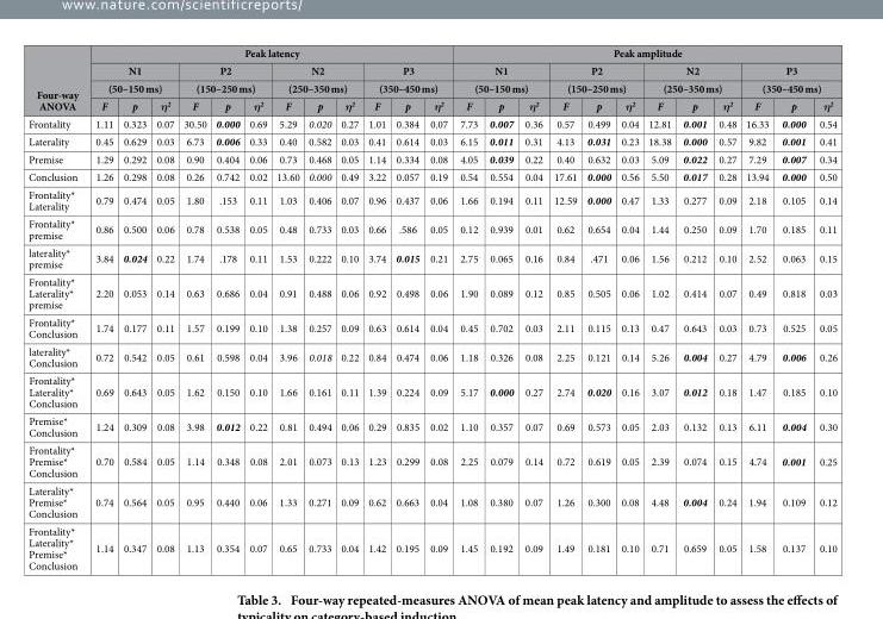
<table><thead><tr><td rowspan="4">Four-way ANOVA</td><td colspan="12">Peak latency</td><td colspan="12">Peak amplitude</td></tr><tr><td rowspan="2" colspan="3">N1 (50–150 ms)</td><td rowspan="2" colspan="3">P2 (150–250 ms)</td><td rowspan="2" colspan="3">N2 (250–350 ms)</td><td rowspan="2" colspan="3">P3 (350–450 ms)</td><td rowspan="2" colspan="3">N1 (50–150 ms)</td><td rowspan="2" colspan="3">P2 (150–250 ms)</td><td rowspan="2" colspan="3">N2 (250–350 ms)</td><td rowspan="2" colspan="3">P3 (350–450 ms)</td></tr><tr></tr><tr><td>F</td><td>p</td><td>η<sup>2</sup></td><td>F</td><td>p</td><td>η<sup>2</sup></td><td>F</td><td>p</td><td>η<sup>2</sup></td><td>F</td><td>p</td><td>η<sup>2</sup></td><td>F</td><td>p</td><td>η<sup>2</sup></td><td>F</td><td>p</td><td>η<sup>2</sup></td><td>F</td><td>p</td><td>η<sup>2</sup></td><td>F</td><td>p</td><td>η<sup>2</sup></td></tr></thead><tbody><tr><td>Frontality</td><td>1.11</td><td>0.323</td><td>0.07</td><td>30.50</td><td>0.000</td><td>0.69</td><td>5.29</td><td>0.020</td><td>0.27</td><td>1.01</td><td>0.384</td><td>0.07</td><td>7.73</td><td>0.007</td><td>0.36</td><td>0.57</td><td>0.499</td><td>0.04</td><td>12.81</td><td>0.001</td><td>0.48</td><td>16.33</td><td>0.000</td><td>0.54</td></tr><tr><td>Laterality</td><td>0.45</td><td>0.629</td><td>0.03</td><td>6.73</td><td>0.006</td><td>0.33</td><td>0.40</td><td>0.582</td><td>0.03</td><td>0.41</td><td>0.614</td><td>0.03</td><td>6.15</td><td>0.011</td><td>0.31</td><td>4.13</td><td>0.031</td><td>0.23</td><td>18.38</td><td>0.000</td><td>0.57</td><td>9.82</td><td>0.001</td><td>0.41</td></tr><tr><td>Premise</td><td>1.29</td><td>0.292</td><td>0.08</td><td>0.90</td><td>0.404</td><td>0.06</td><td>0.73</td><td>0.468</td><td>0.05</td><td>1.14</td><td>0.334</td><td>0.08</td><td>4.05</td><td>0.039</td><td>0.22</td><td>0.40</td><td>0.632</td><td>0.03</td><td>5.09</td><td>0.022</td><td>0.27</td><td>7.29</td><td>0.007</td><td>0.34</td></tr><tr><td>Conclusion</td><td>1.26</td><td>0.298</td><td>0.08</td><td>0.26</td><td>0.742</td><td>0.02</td><td>13.60</td><td>0.000</td><td>0.49</td><td>3.22</td><td>0.057</td><td>0.19</td><td>0.54</td><td>0.554</td><td>0.04</td><td>17.61</td><td>0.000</td><td>0.56</td><td>5.50</td><td>0.017</td><td>0.28</td><td>13.94</td><td>0.000</td><td>0.50</td></tr><tr><td>Frontality* Laterality</td><td>0.79</td><td>0.474</td><td>0.05</td><td>1.80</td><td>.153</td><td>0.11</td><td>1.03</td><td>0.406</td><td>0.07</td><td>0.96</td><td>0.437</td><td>0.06</td><td>1.66</td><td>0.194</td><td>0.11</td><td>12.59</td><td>0.000</td><td>0.47</td><td>1.33</td><td>0.277</td><td>0.09</td><td>2.18</td><td>0.105</td><td>0.14</td></tr><tr><td>Frontality* premise</td><td>0.86</td><td>0.500</td><td>0.06</td><td>0.78</td><td>0.538</td><td>0.05</td><td>0.48</td><td>0.733</td><td>0.03</td><td>0.66</td><td>.586</td><td>0.05</td><td>0.12</td><td>0.939</td><td>0.01</td><td>0.62</td><td>0.654</td><td>0.04</td><td>1.44</td><td>0.250</td><td>0.09</td><td>1.70</td><td>0.185</td><td>0.11</td></tr><tr><td>laterality* premise</td><td>3.84</td><td>0.024</td><td>0.22</td><td>1.74</td><td>.178</td><td>0.11</td><td>1.53</td><td>0.222</td><td>0.10</td><td>3.74</td><td>0.015</td><td>0.21</td><td>2.75</td><td>0.065</td><td>0.16</td><td>0.84</td><td>.471</td><td>0.06</td><td>1.56</td><td>0.212</td><td>0.10</td><td>2.52</td><td>0.063</td><td>0.15</td></tr><tr><td>Frontality* Laterality* premise</td><td>2.20</td><td>0.053</td><td>0.14</td><td>0.63</td><td>0.686</td><td>0.04</td><td>0.91</td><td>0.488</td><td>0.06</td><td>0.92</td><td>0.498</td><td>0.06</td><td>1.90</td><td>0.089</td><td>0.12</td><td>0.85</td><td>0.505</td><td>0.06</td><td>1.02</td><td>0.414</td><td>0.07</td><td>0.49</td><td>0.818</td><td>0.03</td></tr><tr><td>Frontality* Conclusion</td><td>1.74</td><td>0.177</td><td>0.11</td><td>1.57</td><td>0.199</td><td>0.10</td><td>1.38</td><td>0.257</td><td>0.09</td><td>0.63</td><td>0.614</td><td>0.04</td><td>0.45</td><td>0.702</td><td>0.03</td><td>2.11</td><td>0.115</td><td>0.13</td><td>0.47</td><td>0.643</td><td>0.03</td><td>0.73</td><td>0.525</td><td>0.05</td></tr><tr><td>laterality* Conclusion</td><td>0.72</td><td>0.542</td><td>0.05</td><td>0.61</td><td>0.598</td><td>0.04</td><td>3.96</td><td>0.018</td><td>0.22</td><td>0.84</td><td>0.474</td><td>0.06</td><td>1.18</td><td>0.326</td><td>0.08</td><td>2.25</td><td>0.121</td><td>0.14</td><td>5.26</td><td>0.004</td><td>0.27</td><td>4.79</td><td>0.006</td><td>0.26</td></tr><tr><td>Frontality* Laterality* Conclusion</td><td>0.69</td><td>0.643</td><td>0.05</td><td>1.62</td><td>0.150</td><td>0.10</td><td>1.66</td><td>0.161</td><td>0.11</td><td>1.39</td><td>0.224</td><td>0.09</td><td>5.17</td><td>0.000</td><td>0.27</td><td>2.74</td><td>0.020</td><td>0.16</td><td>3.07</td><td>0.012</td><td>0.18</td><td>1.47</td><td>0.185</td><td>0.10</td></tr><tr><td>Premise* Conclusion</td><td>1.24</td><td>0.309</td><td>0.08</td><td>3.98</td><td>0.012</td><td>0.22</td><td>0.81</td><td>0.494</td><td>0.06</td><td>0.29</td><td>0.835</td><td>0.02</td><td>1.10</td><td>0.357</td><td>0.07</td><td>0.69</td><td>0.573</td><td>0.05</td><td>2.03</td><td>0.132</td><td>0.13</td><td>6.11</td><td>0.004</td><td>0.30</td></tr><tr><td>Frontality* Premise* Conclusion</td><td>0.70</td><td>0.584</td><td>0.05</td><td>1.14</td><td>0.348</td><td>0.08</td><td>2.01</td><td>0.073</td><td>0.13</td><td>1.23</td><td>0.299</td><td>0.08</td><td>2.25</td><td>0.079</td><td>0.14</td><td>0.72</td><td>0.619</td><td>0.05</td><td>2.39</td><td>0.074</td><td>0.15</td><td>4.74</td><td>0.001</td><td>0.25</td></tr><tr><td>Laterality* Premise* Conclusion</td><td>0.74</td><td>0.564</td><td>0.05</td><td>0.95</td><td>0.440</td><td>0.06</td><td>1.33</td><td>0.271</td><td>0.09</td><td>0.62</td><td>0.663</td><td>0.04</td><td>1.08</td><td>0.380</td><td>0.07</td><td>1.26</td><td>0.300</td><td>0.08</td><td>4.48</td><td>0.004</td><td>0.24</td><td>1.94</td><td>0.109</td><td>0.12</td></tr><tr><td>Frontality* Laterality* Premise* Conclusion</td><td>1.14</td><td>0.347</td><td>0.08</td><td>1.13</td><td>0.354</td><td>0.07</td><td>0.65</td><td>0.733</td><td>0.04</td><td>1.42</td><td>0.195</td><td>0.09</td><td>1.45</td><td>0.192</td><td>0.09</td><td>1.49</td><td>0.181</td><td>0.10</td><td>0.71</td><td>0.659</td><td>0.05</td><td>1.58</td><td>0.137</td><td>0.10</td></tr></tbody></table>